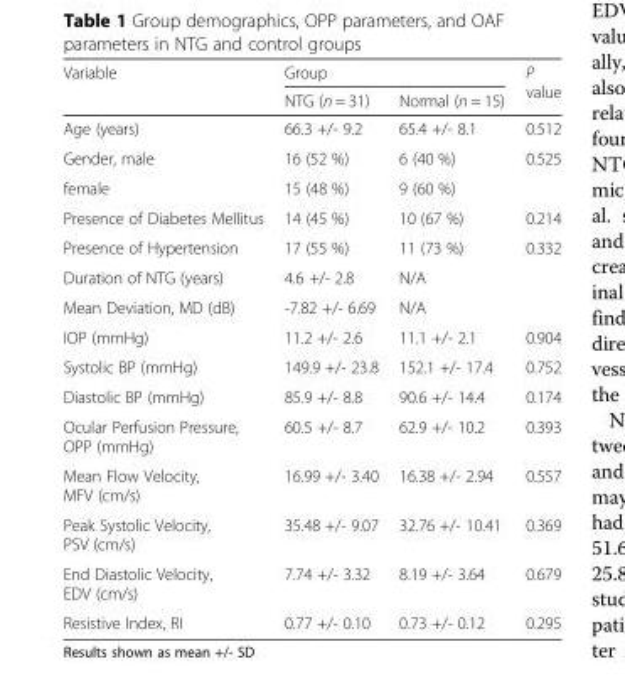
<table><thead><tr><td rowspan="2">Variable</td><td colspan="2">Group</td><td rowspan="2">P value</td></tr><tr><td>NTG (n = 31)</td><td>Normal (n = 15)</td></tr></thead><tbody><tr><td>Age (years)</td><td>66.3 +/- 9.2</td><td>65.4 +/- 8.1</td><td>0.512</td></tr><tr><td>Gender, male</td><td>16 (52 %)</td><td>6 (40 %)</td><td>0.525</td></tr><tr><td>female</td><td>15 (48 %)</td><td>9 (60 %)</td><td></td></tr><tr><td>Presence of Diabetes Mellitus</td><td>14 (45 %)</td><td>10 (67 %)</td><td>0.214</td></tr><tr><td>Presence of Hypertension</td><td>17 (55 %)</td><td>11 (73 %)</td><td>0.332</td></tr><tr><td>Duration of NTG (years)</td><td>4.6 +/- 2.8</td><td>N/A</td><td></td></tr><tr><td>Mean Deviation, MD (dB)</td><td>-7.82 +/- 6.69</td><td>N/A</td><td></td></tr><tr><td>IOP (mmHg)</td><td>11.2 +/- 2.6</td><td>11.1 +/- 2.1</td><td>0.904</td></tr><tr><td>Systolic BP (mmHg)</td><td>149.9 +/- 23.8</td><td>152.1 +/- 17.4</td><td>0.752</td></tr><tr><td>Diastolic BP (mmHg)</td><td>85.9 +/- 8.8</td><td>90.6 +/- 14.4</td><td>0.174</td></tr><tr><td>Ocular Perfusion Pressure, OPP (mmHg)</td><td>60.5 +/- 8.7</td><td>62.9 +/- 10.2</td><td>0.393</td></tr><tr><td>Mean Flow Velocity, MFV (cm/s)</td><td>16.99 +/- 3.40</td><td>16.38 +/- 2.94</td><td>0.557</td></tr><tr><td>Peak Systolic Velocity, PSV (cm/s)</td><td>35.48 +/- 9.07</td><td>32.76 +/- 10.41</td><td>0.369</td></tr><tr><td>End Diastolic Velocity, EDV (cm/s)</td><td>7.74 +/- 3.32</td><td>8.19 +/- 3.64</td><td>0.679</td></tr><tr><td>Resistive Index, RI</td><td>0.77 +/- 0.10</td><td>0.73 +/- 0.12</td><td>0.295</td></tr></tbody></table>